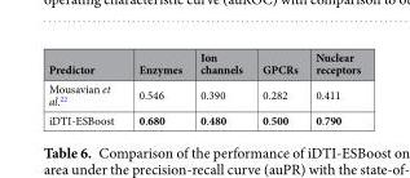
<table><thead><tr><td>Predictor</td><td>Enzymes</td><td>Ion channels</td><td>GPCRs</td><td>Nuclear receptors</td></tr></thead><tbody><tr><td>Mousavian et al.<sup>22</sup></td><td>0.546</td><td>0.390</td><td>0.282</td><td>0.411</td></tr><tr><td>iDTI-ESBoost</td><td>0.680</td><td>0.480</td><td>0.500</td><td>0.790</td></tr></tbody></table>